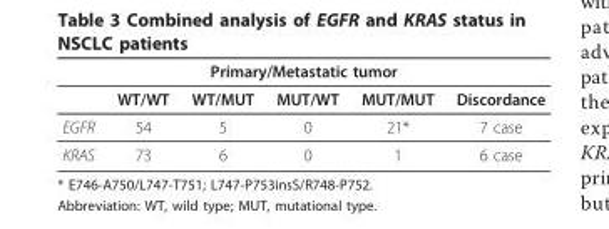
<table><thead><tr><td colspan="6">Primary/Metastatic tumor</td></tr><tr><td></td><td>WT/WT</td><td>WT/MUT</td><td>MUT/WT</td><td>MUT/MUT</td><td>Discordance</td></tr></thead><tbody><tr><td>EGFR</td><td>54</td><td>5</td><td>0</td><td>21*</td><td>7 case</td></tr><tr><td>KRAS</td><td>73</td><td>6</td><td>0</td><td>1</td><td>6 case</td></tr></tbody></table>